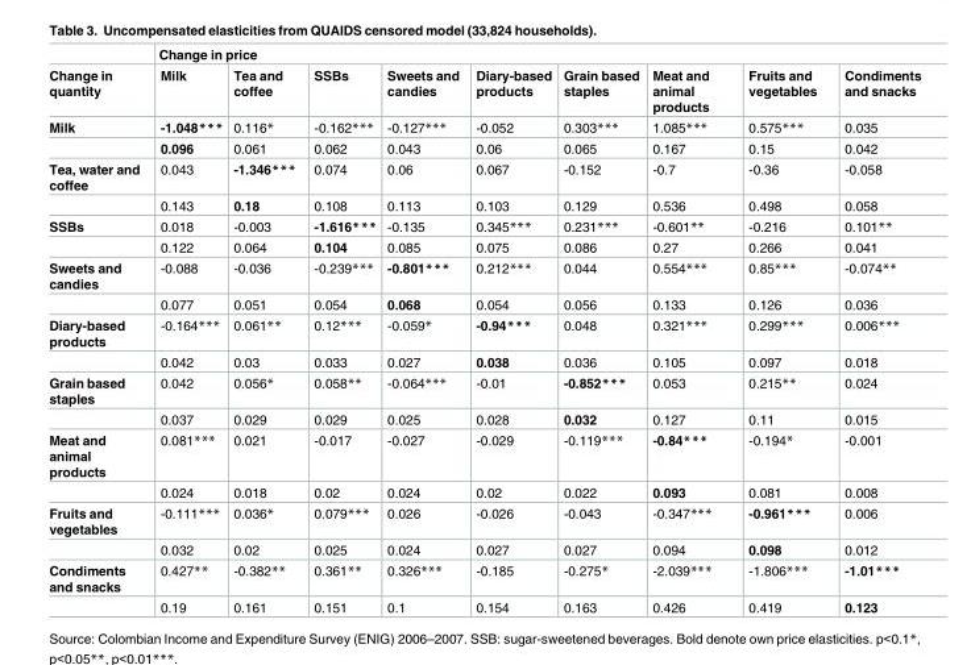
<table><thead><tr><td rowspan="2">Change in quantity</td><td colspan="9">Change in price</td></tr><tr><td>Milk</td><td>Tea and coffee</td><td>SSBs</td><td>Sweets and candies</td><td>Diary-based products</td><td>Grain based staples</td><td>Meat and animal products</td><td>Fruits and vegetables</td><td>Condiments and snacks</td></tr></thead><tbody><tr><td rowspan="2">Milk</td><td>-1.048***</td><td>0.116*</td><td>-0.162***</td><td>-0.127***</td><td>-0.052</td><td>0.303***</td><td>1.085***</td><td>0.575***</td><td>0.035</td></tr><tr><td>0.096</td><td>0.061</td><td>0.062</td><td>0.043</td><td>0.06</td><td>0.065</td><td>0.167</td><td>0.15</td><td>0.042</td></tr><tr><td rowspan="2">Tea, water and coffee</td><td>0.043</td><td>-1.346***</td><td>0.074</td><td>0.06</td><td>0.067</td><td>-0.152</td><td>-0.7</td><td>-0.36</td><td>-0.058</td></tr><tr><td>0.143</td><td>0.18</td><td>0.108</td><td>0.113</td><td>0.103</td><td>0.129</td><td>0.536</td><td>0.498</td><td>0.058</td></tr><tr><td rowspan="2">SSBs</td><td>0.018</td><td>-0.003</td><td>-1.616***</td><td>-0.135</td><td>0.345***</td><td>0.231***</td><td>-0.601**</td><td>-0.216</td><td>0.101**</td></tr><tr><td>0.122</td><td>0.064</td><td>0.104</td><td>0.085</td><td>0.075</td><td>0.086</td><td>0.27</td><td>0.266</td><td>0.041</td></tr><tr><td rowspan="2">Sweets and candies</td><td>-0.088</td><td>-0.036</td><td>-0.239***</td><td>-0.801***</td><td>0.212***</td><td>0.044</td><td>0.554***</td><td>0.85***</td><td>-0.074**</td></tr><tr><td>0.077</td><td>0.051</td><td>0.054</td><td>0.068</td><td>0.054</td><td>0.056</td><td>0.133</td><td>0.126</td><td>0.036</td></tr><tr><td rowspan="2">Diary-based products</td><td>-0.164***</td><td>0.061**</td><td>0.12***</td><td>-0.059*</td><td>-0.94***</td><td>0.048</td><td>0.321***</td><td>0.299***</td><td>0.006***</td></tr><tr><td>0.042</td><td>0.03</td><td>0.033</td><td>0.027</td><td>0.038</td><td>0.036</td><td>0.105</td><td>0.097</td><td>0.018</td></tr><tr><td rowspan="2">Grain based staples</td><td>0.042</td><td>0.056*</td><td>0.058**</td><td>-0.064***</td><td>-0.01</td><td>-0.852***</td><td>0.053</td><td>0.215**</td><td>0.024</td></tr><tr><td>0.037</td><td>0.029</td><td>0.029</td><td>0.025</td><td>0.028</td><td>0.032</td><td>0.127</td><td>0.11</td><td>0.015</td></tr><tr><td rowspan="2">Meat and animal products</td><td>0.081***</td><td>0.021</td><td>-0.017</td><td>-0.027</td><td>-0.029</td><td>-0.119***</td><td>-0.84***</td><td>-0.194*</td><td>-0.001</td></tr><tr><td>0.024</td><td>0.018</td><td>0.02</td><td>0.024</td><td>0.02</td><td>0.022</td><td>0.093</td><td>0.081</td><td>0.008</td></tr><tr><td rowspan="2">Fruits and vegetables</td><td>-0.111***</td><td>0.036*</td><td>0.079***</td><td>0.026</td><td>-0.026</td><td>-0.043</td><td>-0.347***</td><td>-0.961***</td><td>0.006</td></tr><tr><td>0.032</td><td>0.02</td><td>0.025</td><td>0.024</td><td>0.027</td><td>0.027</td><td>0.094</td><td>0.098</td><td>0.012</td></tr><tr><td rowspan="2">Condiments and snacks</td><td>0.427**</td><td>-0.382**</td><td>0.361**</td><td>0.326***</td><td>-0.185</td><td>-0.275*</td><td>-2.039***</td><td>-1.806***</td><td>-1.01***</td></tr><tr><td>0.19</td><td>0.161</td><td>0.151</td><td>0.1</td><td>0.154</td><td>0.163</td><td>0.426</td><td>0.419</td><td>0.123</td></tr></tbody></table>